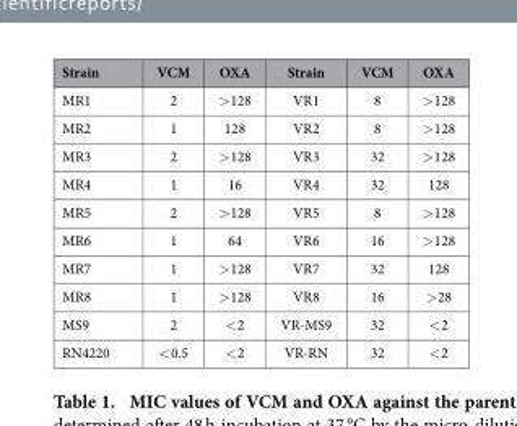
<table><thead><tr><td>Strain</td><td>VCM</td><td>OXA</td><td>Strain</td><td>VCM</td><td>OXA</td></tr></thead><tbody><tr><td>MR1</td><td>2</td><td>&gt; 128</td><td>VR1</td><td>8</td><td>&gt; 128</td></tr><tr><td>MR2</td><td>1</td><td>128</td><td>VR2</td><td>8</td><td>&gt; 128</td></tr><tr><td>MR3</td><td>2</td><td>&gt; 128</td><td>VR3</td><td>32</td><td>&gt; 128</td></tr><tr><td>MR4</td><td>1</td><td>16</td><td>VR4</td><td>32</td><td>128</td></tr><tr><td>MR5</td><td>2</td><td>&gt; 128</td><td>VR5</td><td>8</td><td>&gt; 128</td></tr><tr><td>MR6</td><td>1</td><td>64</td><td>VR6</td><td>16</td><td>&gt; 128</td></tr><tr><td>MR7</td><td>1</td><td>&gt; 128</td><td>VR7</td><td>32</td><td>128</td></tr><tr><td>MR8</td><td>1</td><td>&gt; 128</td><td>VR8</td><td>16</td><td>&gt; 28</td></tr><tr><td>MS9</td><td>2</td><td>&lt; 2</td><td>VR-MS9</td><td>32</td><td>&lt; 2</td></tr><tr><td>RN4220</td><td>&lt; 0.5</td><td>&lt; 2</td><td>VR-RN</td><td>32</td><td>&lt; 2</td></tr></tbody></table>